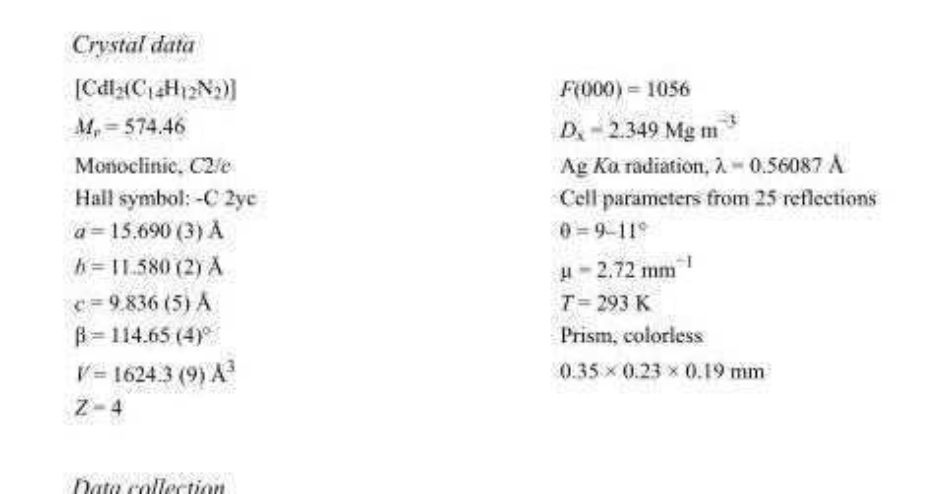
<table><tbody><tr><td>[CdI<sub>2</sub>(C<sub>14</sub>H<sub>12</sub>N<sub>2</sub>)]</td><td>F(000) = 1056</td></tr><tr><td>M<sub>r</sub> = 574.46</td><td>D<sub>x</sub> = 2.349 Mg m<sup>−3</sup></td></tr><tr><td>Monoclinic, C2/c</td><td>Ag Kα radiation, λ = 0.56087 Å</td></tr><tr><td>Hall symbol: -C 2yc</td><td>Cell parameters from 25 reflections</td></tr><tr><td>a = 15.690 (3) Å</td><td>θ = 9–11°</td></tr><tr><td>b = 11.580 (2) Å</td><td>µ = 2.72 mm<sup>−1</sup></td></tr><tr><td>c = 9.836 (5) Å</td><td>T = 293 K</td></tr><tr><td>β = 114.65 (4)°</td><td>Prism, colorless</td></tr><tr><td>V = 1624.3 (9) Å<sup>3</sup></td><td>0.35 × 0.23 × 0.19 mm</td></tr><tr><td>Z = 4</td><td></td></tr></tbody></table>